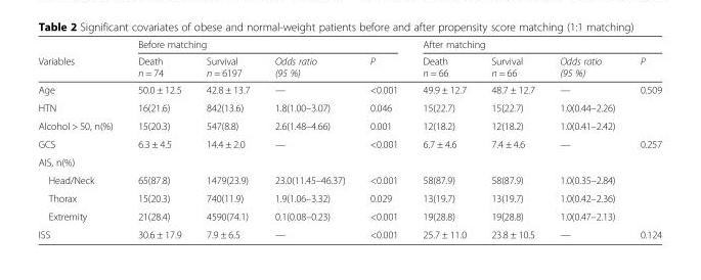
<table><thead><tr><td rowspan="2">Variables</td><td colspan="4">Before matching</td><td colspan="4">After matching</td></tr><tr><td>Death n = 74</td><td>Survival n = 6197</td><td>Odds ratio (95 %)</td><td>P</td><td>Death n = 66</td><td>Survival n = 66</td><td>Odds ratio (95 %)</td><td>P</td></tr></thead><tbody><tr><td>Age</td><td>50.0 ± 12.5</td><td>42.8 ± 13.7</td><td>—</td><td>&lt;0.001</td><td>49.9 ± 12.7</td><td>48.7 ± 12.7</td><td>—</td><td>0.509</td></tr><tr><td>HTN</td><td>16(21.6)</td><td>842(13.6)</td><td>1.8(1.00–3.07)</td><td>0.046</td><td>15(22.7)</td><td>15(22.7)</td><td>1.0(0.44–2.26)</td><td></td></tr><tr><td>Alcohol &gt; 50, n(%)</td><td>15(20.3)</td><td>547(8.8)</td><td>2.6(1.48–4.66)</td><td>0.001</td><td>12(18.2)</td><td>12(18.2)</td><td>1.0(0.41–2.42)</td><td></td></tr><tr><td>GCS</td><td>6.3 ± 4.5</td><td>14.4 ± 2.0</td><td>—</td><td>&lt;0.001</td><td>6.7 ± 4.6</td><td>7.4 ± 4.6</td><td>—</td><td>0.257</td></tr><tr><td colspan="9">AIS, n(%)</td></tr><tr><td>Head/Neck</td><td>65(87.8)</td><td>1479(23.9)</td><td>23.0(11.45–46.37)</td><td>&lt;0.001</td><td>58(87.9)</td><td>58(87.9)</td><td>1.0(0.35–2.84)</td><td></td></tr><tr><td>Thorax</td><td>15(20.3)</td><td>740(11.9)</td><td>1.9(1.06–3.32)</td><td>0.029</td><td>13(19.7)</td><td>13(19.7)</td><td>1.0(0.42–2.36)</td><td></td></tr><tr><td>Extremity</td><td>21(28.4)</td><td>4590(74.1)</td><td>0.1(0.08–0.23)</td><td>&lt;0.001</td><td>19(28.8)</td><td>19(28.8)</td><td>1.0(0.47–2.13)</td><td></td></tr><tr><td>ISS</td><td>30.6 ± 17.9</td><td>7.9 ± 6.5</td><td>—</td><td>&lt;0.001</td><td>25.7 ± 11.0</td><td>23.8 ± 10.5</td><td>—</td><td>0.124</td></tr></tbody></table>